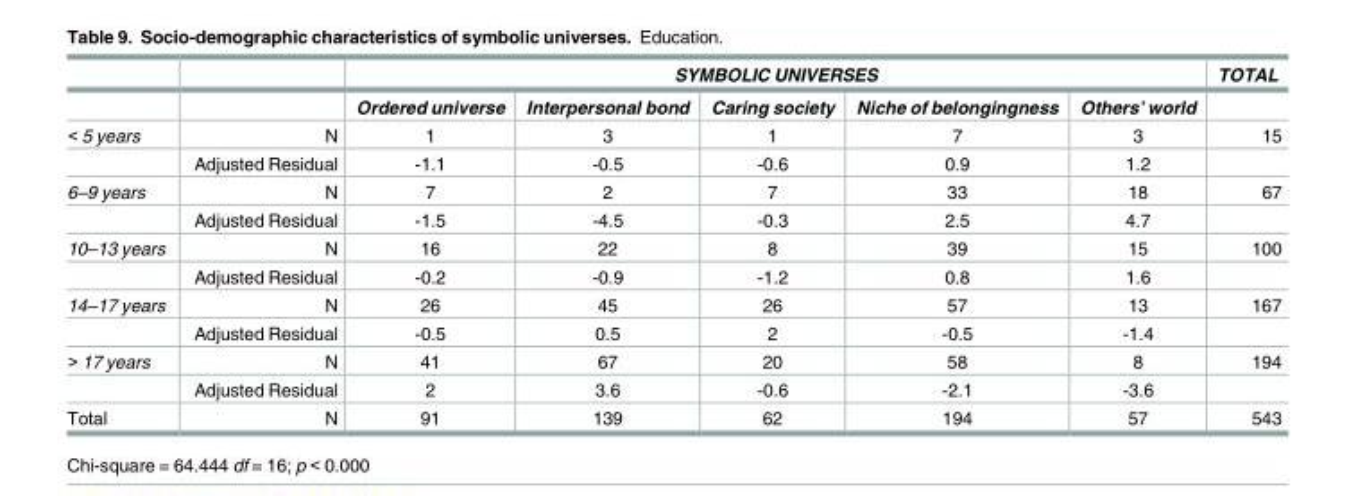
<table><thead><tr><td rowspan="2"></td><td rowspan="2"></td><td colspan="5">SYMBOLIC UNIVERSES</td><td rowspan="2">TOTAL</td></tr><tr><td>Ordered universe</td><td>Interpersonal bond</td><td>Caring society</td><td>Niche of belongingness</td><td>Others’ world</td></tr></thead><tbody><tr><td rowspan="2">&lt; 5 years</td><td>N</td><td>1</td><td>3</td><td>1</td><td>7</td><td>3</td><td>15</td></tr><tr><td>Adjusted Residual</td><td>-1.1</td><td>-0.5</td><td>-0.6</td><td>0.9</td><td>1.2</td><td></td></tr><tr><td rowspan="2">6–9 years</td><td>N</td><td>7</td><td>2</td><td>7</td><td>33</td><td>18</td><td>67</td></tr><tr><td>Adjusted Residual</td><td>-1.5</td><td>-4.5</td><td>-0.3</td><td>2.5</td><td>4.7</td><td></td></tr><tr><td rowspan="2">10–13 years</td><td>N</td><td>16</td><td>22</td><td>8</td><td>39</td><td>15</td><td>100</td></tr><tr><td>Adjusted Residual</td><td>-0.2</td><td>-0.9</td><td>-1.2</td><td>0.8</td><td>1.6</td><td></td></tr><tr><td rowspan="2">14–17 years</td><td>N</td><td>26</td><td>45</td><td>26</td><td>57</td><td>13</td><td>167</td></tr><tr><td>Adjusted Residual</td><td>-0.5</td><td>0.5</td><td>2</td><td>-0.5</td><td>-1.4</td><td></td></tr><tr><td rowspan="2">&gt; 17 years</td><td>N</td><td>41</td><td>67</td><td>20</td><td>58</td><td>8</td><td>194</td></tr><tr><td>Adjusted Residual</td><td>2</td><td>3.6</td><td>-0.6</td><td>-2.1</td><td>-3.6</td><td></td></tr><tr><td>Total</td><td>N</td><td>91</td><td>139</td><td>62</td><td>194</td><td>57</td><td>543</td></tr></tbody></table>